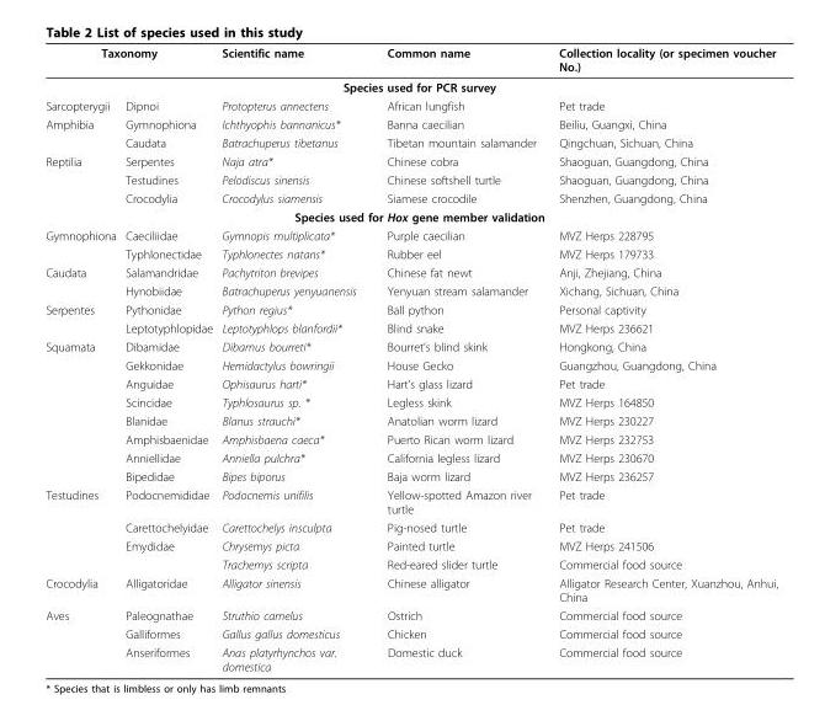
<table><thead><tr><td colspan="2">Taxonomy</td><td>Scientific name</td><td>Common name</td><td>Collection locality (or specimen voucher No.)</td></tr><tr><td colspan="5">Species used for PCR survey</td></tr><tr><td>Sarcopterygii</td><td>Dipnoi</td><td>Protopterus annectens</td><td>African lungfish</td><td>Pet trade</td></tr></thead><tbody><tr><td rowspan="2">Amphibia</td><td>Gymnophiona</td><td>Ichthyophis bannanicus*</td><td>Banna caecilian</td><td>Beiliu, Guangxi, China</td></tr><tr><td>Caudata</td><td>Batrachuperus tibetanus</td><td>Tibetan mountain salamander</td><td>Qingchuan, Sichuan, China</td></tr><tr><td rowspan="3">Reptilia</td><td>Serpentes</td><td>Naja atra*</td><td>Chinese cobra</td><td>Shaoguan, Guangdong, China</td></tr><tr><td>Testudines</td><td>Pelodiscus sinensis</td><td>Chinese softshell turtle</td><td>Shaoguan, Guangdong, China</td></tr><tr><td>Crocodylia</td><td>Crocodylus siamensis</td><td>Siamese crocodile</td><td>Shenzhen, Guangdong, China</td></tr><tr><td colspan="5">Species used for Hox gene member validation</td></tr><tr><td rowspan="2">Gymnophiona</td><td>Caeciliidae</td><td>Gymnopis multiplicata*</td><td>Purple caecilian</td><td>MVZ Herps 228795</td></tr><tr><td>Typhlonectidae</td><td>Typhlonectes natans*</td><td>Rubber eel</td><td>MVZ Herps 179733</td></tr><tr><td rowspan="2">Caudata</td><td>Salamandridae</td><td>Pachytriton brevipes</td><td>Chinese fat newt</td><td>Anji, Zhejiang, China</td></tr><tr><td>Hynobiidae</td><td>Batrachuperus yenyuanensis</td><td>Yenyuan stream salamander</td><td>Xichang, Sichuan, China</td></tr><tr><td rowspan="2">Serpentes</td><td>Pythonidae</td><td>Python regius*</td><td>Ball python</td><td>Personal captivity</td></tr><tr><td>Leptotyphlopidae</td><td>Leptotyphlops blanfordii*</td><td>Blind snake</td><td>MVZ Herps 236621</td></tr><tr><td rowspan="8">Squamata</td><td>Dibamidae</td><td>Dibamus bourreti*</td><td>Bourret’s blind skink</td><td>Hongkong, China</td></tr><tr><td>Gekkonidae</td><td>Hemidactylus bowringii</td><td>House Gecko</td><td>Guangzhou, Guangdong, China</td></tr><tr><td>Anguidae</td><td>Ophisaurus harti*</td><td>Hart’s glass lizard</td><td>Pet trade</td></tr><tr><td>Scincidae</td><td>Typhlosaurus sp. *</td><td>Legless skink</td><td>MVZ Herps 164850</td></tr><tr><td>Blanidae</td><td>Blanus strauchi*</td><td>Anatolian worm lizard</td><td>MVZ Herps 230227</td></tr><tr><td>Amphisbaenidae</td><td>Amphisbaena caeca*</td><td>Puerto Rican worm lizard</td><td>MVZ Herps 232753</td></tr><tr><td>Anniellidae</td><td>Anniella pulchra*</td><td>California legless lizard</td><td>MVZ Herps 230670</td></tr><tr><td>Bipedidae</td><td>Bipes biporus</td><td>Baja worm lizard</td><td>MVZ Herps 236257</td></tr><tr><td rowspan="4">Testudines</td><td>Podocnemididae</td><td>Podocnemis unifilis</td><td>Yellow-spotted Amazon river turtle</td><td>Pet trade</td></tr><tr><td>Carettochelyidae</td><td>Carettochelys insculpta</td><td>Pig-nosed turtle</td><td>Pet trade</td></tr><tr><td>Emydidae</td><td>Chrysemys picta</td><td>Painted turtle</td><td>MVZ Herps 241506</td></tr><tr><td></td><td>Trachemys scripta</td><td>Red-eared slider turtle</td><td>Commercial food source</td></tr><tr><td>Crocodylia</td><td>Alligatoridae</td><td>Alligator sinensis</td><td>Chinese alligator</td><td>Alligator Research Center, Xuanzhou, Anhui, China</td></tr><tr><td rowspan="3">Aves</td><td>Paleognathae</td><td>Struthio camelus</td><td>Ostrich</td><td>Commercial food source</td></tr><tr><td>Galliformes</td><td>Gallus gallus domesticus</td><td>Chicken</td><td>Commercial food source</td></tr><tr><td>Anseriformes</td><td>Anas platyrhynchos var. domestica</td><td>Domestic duck</td><td>Commercial food source</td></tr></tbody></table>